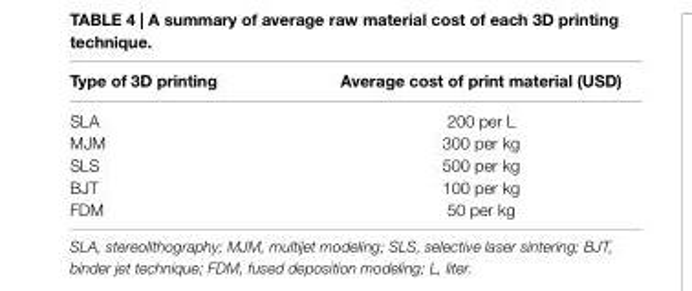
<table><thead><tr><td>Type of 3D printing</td><td>Average cost of print material (USD)</td></tr></thead><tbody><tr><td>SLA</td><td>200 per L</td></tr><tr><td>MJM</td><td>300 per kg</td></tr><tr><td>SLS</td><td>500 per kg</td></tr><tr><td>BJT</td><td>100 per kg</td></tr><tr><td>FDM</td><td>50 per kg</td></tr></tbody></table>